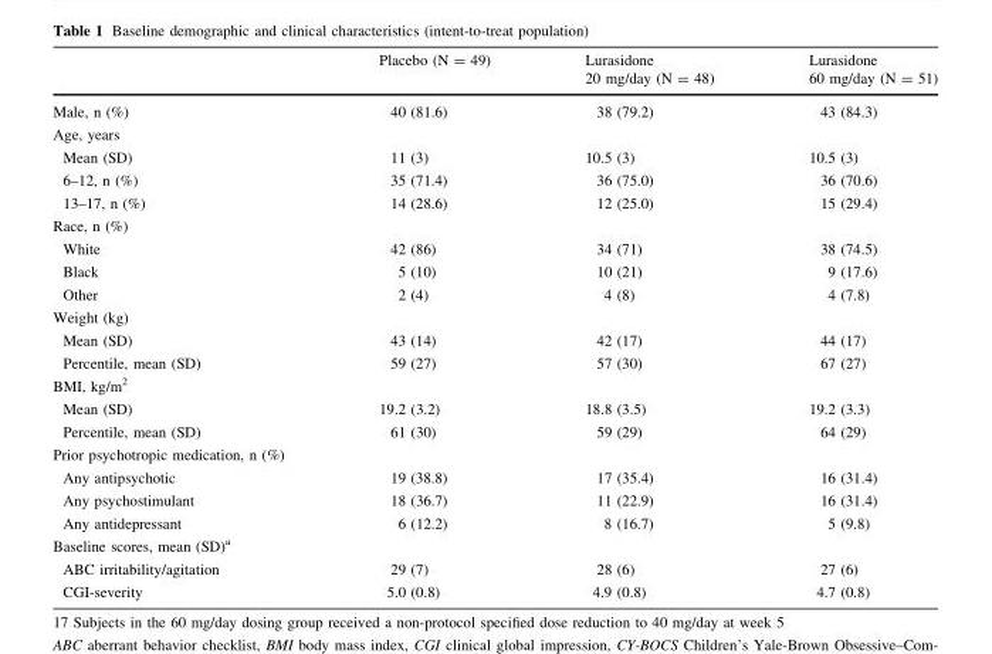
<table><thead><tr><td></td><td>Placebo (N = 49)</td><td>Lurasidone 20 mg/day (N = 48)</td><td>Lurasidone 60 mg/day (N = 51)</td></tr></thead><tbody><tr><td>Male, n (%)</td><td>40 (81.6)</td><td>38 (79.2)</td><td>43 (84.3)</td></tr><tr><td colspan="4">Age, years</td></tr><tr><td>Mean (SD)</td><td>11 (3)</td><td>10.5 (3)</td><td>10.5 (3)</td></tr><tr><td>6–12, n (%)</td><td>35 (71.4)</td><td>36 (75.0)</td><td>36 (70.6)</td></tr><tr><td>13–17, n (%)</td><td>14 (28.6)</td><td>12 (25.0)</td><td>15 (29.4)</td></tr><tr><td colspan="4">Race, n (%)</td></tr><tr><td>White</td><td>42 (86)</td><td>34 (71)</td><td>38 (74.5)</td></tr><tr><td>Black</td><td>5 (10)</td><td>10 (21)</td><td>9 (17.6)</td></tr><tr><td>Other</td><td>2 (4)</td><td>4 (8)</td><td>4 (7.8)</td></tr><tr><td colspan="4">Weight (kg)</td></tr><tr><td>Mean (SD)</td><td>43 (14)</td><td>42 (17)</td><td>44 (17)</td></tr><tr><td>Percentile, mean (SD)</td><td>59 (27)</td><td>57 (30)</td><td>67 (27)</td></tr><tr><td colspan="4">BMI, kg/m<sup>2</sup></td></tr><tr><td>Mean (SD)</td><td>19.2 (3.2)</td><td>18.8 (3.5)</td><td>19.2 (3.3)</td></tr><tr><td>Percentile, mean (SD)</td><td>61 (30)</td><td>59 (29)</td><td>64 (29)</td></tr><tr><td colspan="4">Prior psychotropic medication, n (%)</td></tr><tr><td>Any antipsychotic</td><td>19 (38.8)</td><td>17 (35.4)</td><td>16 (31.4)</td></tr><tr><td>Any psychostimulant</td><td>18 (36.7)</td><td>11 (22.9)</td><td>16 (31.4)</td></tr><tr><td>Any antidepressant</td><td>6 (12.2)</td><td>8 (16.7)</td><td>5 (9.8)</td></tr><tr><td colspan="4">Baseline scores, mean (SD)<sup>a</sup></td></tr><tr><td>ABC irritability/agitation</td><td>29 (7)</td><td>28 (6)</td><td>27 (6)</td></tr><tr><td>CGI-severity</td><td>5.0 (0.8)</td><td>4.9 (0.8)</td><td>4.7 (0.8)</td></tr></tbody></table>